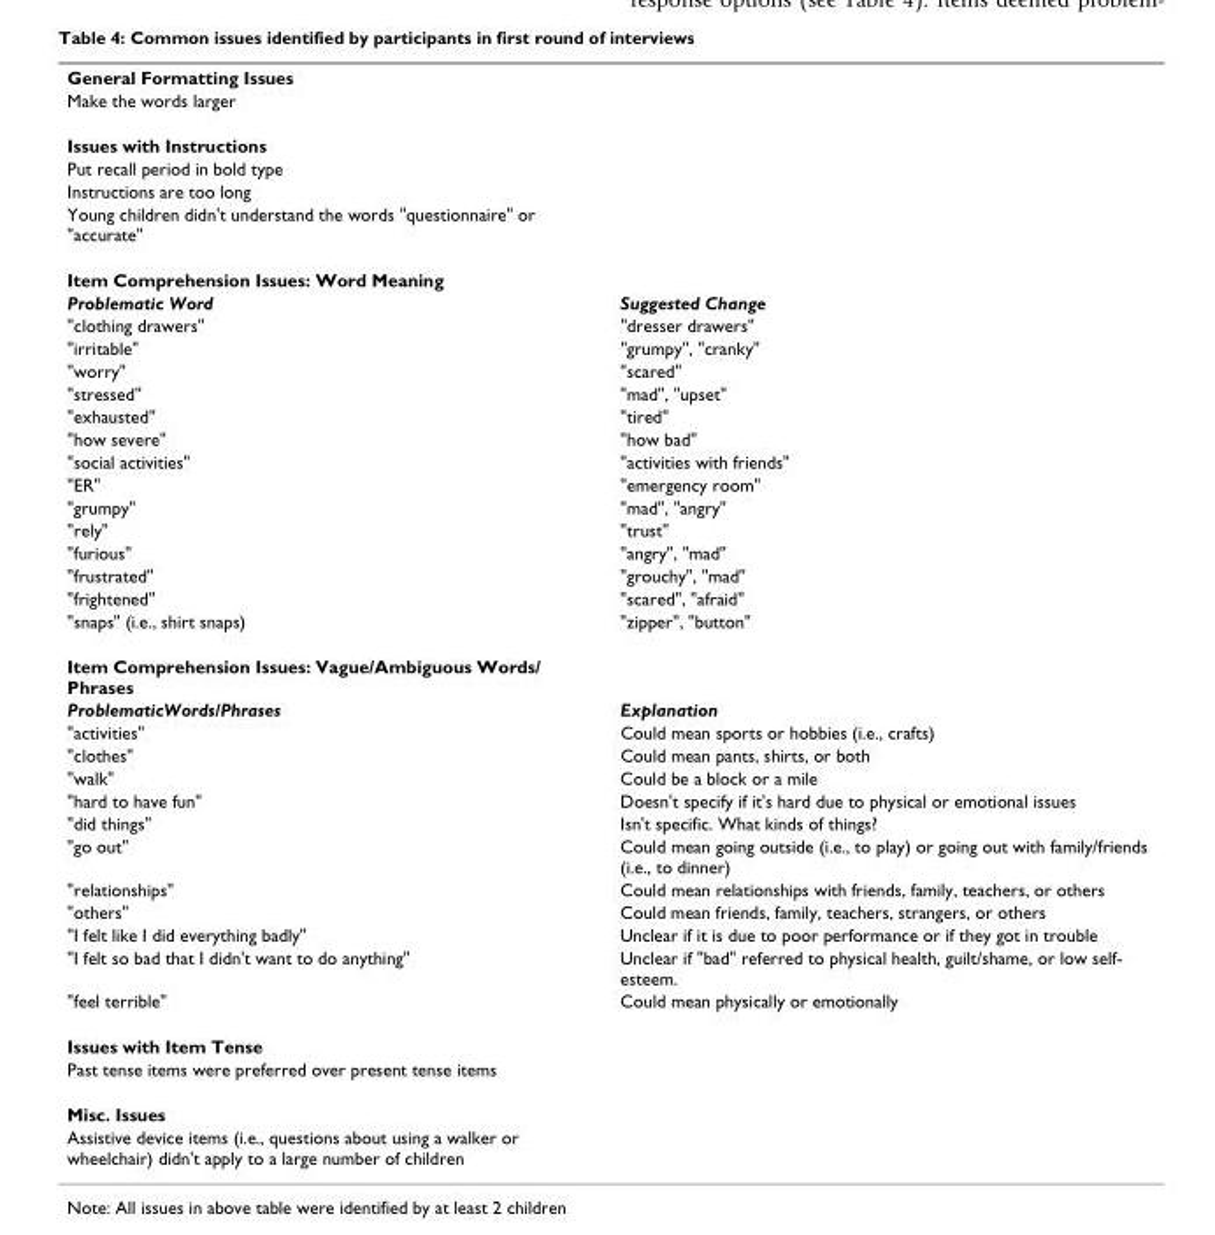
<table><tbody><tr><td colspan="2">General Formatting Issues</td></tr><tr><td colspan="2">Make the words larger</td></tr><tr><td colspan="2">Issues with Instructions</td></tr><tr><td colspan="2">Put recall period in bold type</td></tr><tr><td colspan="2">Instructions are too long</td></tr><tr><td colspan="2">Young children didn&#x27;t understand the words &quot;questionnaire&quot; or &quot;accurate&quot;</td></tr><tr><td colspan="2">Item Comprehension Issues: Word Meaning</td></tr><tr><td>Problematic Word</td><td>Suggested Change</td></tr><tr><td>&quot;clothing drawers&quot;</td><td>&quot;dresser drawers&quot;</td></tr><tr><td>&quot;irritable&quot;</td><td>&quot;grumpy&quot;, &quot;cranky&quot;</td></tr><tr><td>&quot;worry&quot;</td><td>&quot;scared&quot;</td></tr><tr><td>&quot;stressed&quot;</td><td>&quot;mad&quot;, &quot;upset&quot;</td></tr><tr><td>&quot;exhausted&quot;</td><td>&quot;tired&quot;</td></tr><tr><td>&quot;how severe&quot;</td><td>&quot;how bad&quot;</td></tr><tr><td>&quot;social activities&quot;</td><td>&quot;activities with friends&quot;</td></tr><tr><td>&quot;ER&quot;</td><td>&quot;emergency room&quot;</td></tr><tr><td>&quot;grumpy&quot;</td><td>&quot;mad&quot;, &quot;angry&quot;</td></tr><tr><td>&quot;rely&quot;</td><td>&quot;trust&quot;</td></tr><tr><td>&quot;furious&quot;</td><td>&quot;angry&quot;, &quot;mad&quot;</td></tr><tr><td>&quot;frustrated&quot;</td><td>&quot;grouchy&quot;, &quot;mad&quot;</td></tr><tr><td>&quot;frightened&quot;</td><td>&quot;scared&quot;, &quot;afraid&quot;</td></tr><tr><td>&quot;snaps&quot; (i.e., shirt snaps)</td><td>&quot;zipper&quot;, &quot;button&quot;</td></tr><tr><td colspan="2">Item Comprehension Issues: Vague/Ambiguous Words/ Phrases</td></tr><tr><td>ProblematicWords/Phrases</td><td>Explanation</td></tr><tr><td>&quot;activities&quot;</td><td>Could mean sports or hobbies (i.e., crafts)</td></tr><tr><td>&quot;clothes&quot;</td><td>Could mean pants, shirts, or both</td></tr><tr><td>&quot;walk&quot;</td><td>Could be a block or a mile</td></tr><tr><td>&quot;hard to have fun&quot;</td><td>Doesn&#x27;t specify if it&#x27;s hard due to physical or emotional issues</td></tr><tr><td>&quot;did things&quot;</td><td>Isn&#x27;t specific. What kinds of things?</td></tr><tr><td>&quot;go out&quot;</td><td>Could mean going outside (i.e., to play) or going out with family/friends (i.e., to dinner)</td></tr><tr><td>&quot;relationships&quot;</td><td>Could mean relationships with friends, family, teachers, or others</td></tr><tr><td>&quot;others&quot;</td><td>Could mean friends, family, teachers, strangers, or others</td></tr><tr><td>&quot;I felt like I did everything badly&quot;</td><td>Unclear if it is due to poor performance or if they got in trouble</td></tr><tr><td>&quot;I felt so bad that I didn&#x27;t want to do anything&quot;</td><td>Unclear if &quot;bad&quot; referred to physical health, guilt/shame, or low self- esteem.</td></tr><tr><td>&quot;feel terrible&quot;</td><td>Could mean physically or emotionally</td></tr><tr><td colspan="2">Issues with Item Tense</td></tr><tr><td colspan="2">Past tense items were preferred over present tense items</td></tr><tr><td colspan="2">Misc. Issues</td></tr><tr><td>Assistive device items (i.e., questions about using a walker or wheelchair) didn&#x27;t apply to a large number of children</td><td></td></tr></tbody></table>